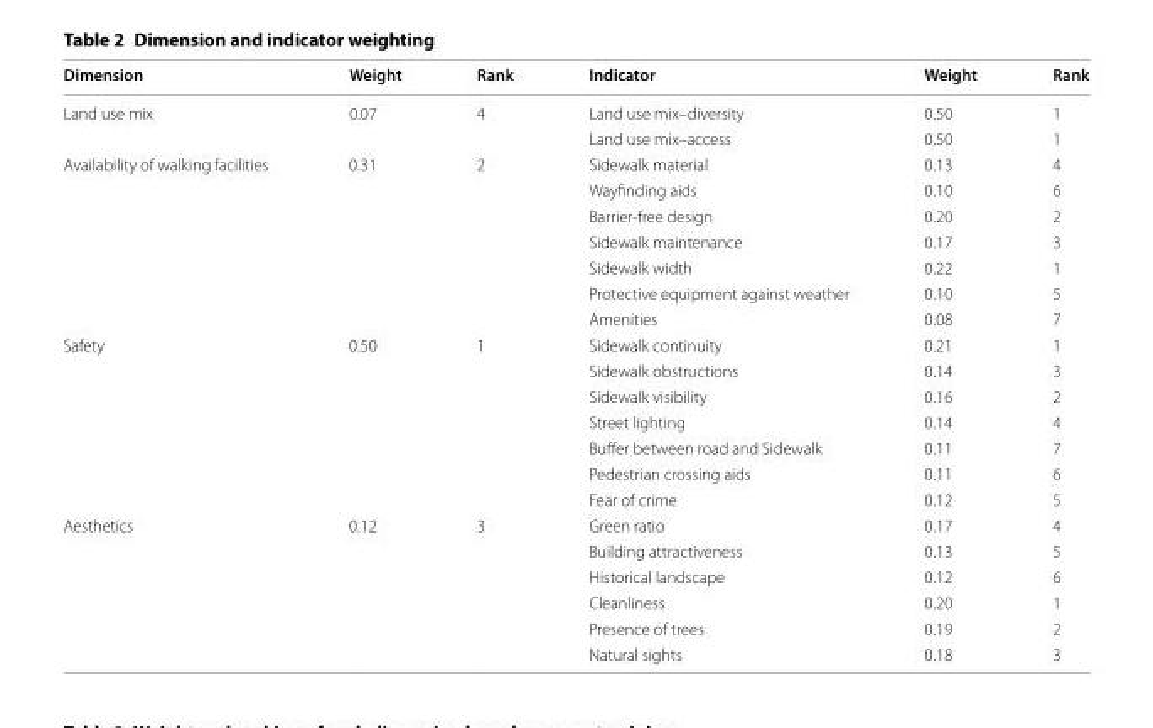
<table><thead><tr><td>Dimension</td><td>Weight</td><td>Rank</td><td>Indicator</td><td>Weight</td><td>Rank</td></tr></thead><tbody><tr><td rowspan="2">Land use mix</td><td>0.07</td><td>4</td><td>Land use mix–diversity</td><td>0.50</td><td>1</td></tr><tr><td></td><td></td><td>Land use mix–access</td><td>0.50</td><td>1</td></tr><tr><td rowspan="7">Availability of walking facilities</td><td>0.31</td><td>2</td><td>Sidewalk material</td><td>0.13</td><td>4</td></tr><tr><td></td><td></td><td>Wayfinding aids</td><td>0.10</td><td>6</td></tr><tr><td></td><td></td><td>Barrier‑free design</td><td>0.20</td><td>2</td></tr><tr><td></td><td></td><td>Sidewalk maintenance</td><td>0.17</td><td>3</td></tr><tr><td></td><td></td><td>Sidewalk width</td><td>0.22</td><td>1</td></tr><tr><td></td><td></td><td>Protective equipment against weather</td><td>0.10</td><td>5</td></tr><tr><td></td><td></td><td>Amenities</td><td>0.08</td><td>7</td></tr><tr><td rowspan="7">Safety</td><td>0.50</td><td>1</td><td>Sidewalk continuity</td><td>0.21</td><td>1</td></tr><tr><td></td><td></td><td>Sidewalk obstructions</td><td>0.14</td><td>3</td></tr><tr><td></td><td></td><td>Sidewalk visibility</td><td>0.16</td><td>2</td></tr><tr><td></td><td></td><td>Street lighting</td><td>0.14</td><td>4</td></tr><tr><td></td><td></td><td>Buffer between road and Sidewalk</td><td>0.11</td><td>7</td></tr><tr><td></td><td></td><td>Pedestrian crossing aids</td><td>0.11</td><td>6</td></tr><tr><td></td><td></td><td>Fear of crime</td><td>0.12</td><td>5</td></tr><tr><td rowspan="6">Aesthetics</td><td>0.12</td><td>3</td><td>Green ratio</td><td>0.17</td><td>4</td></tr><tr><td></td><td></td><td>Building attractiveness</td><td>0.13</td><td>5</td></tr><tr><td></td><td></td><td>Historical landscape</td><td>0.12</td><td>6</td></tr><tr><td></td><td></td><td>Cleanliness</td><td>0.20</td><td>1</td></tr><tr><td></td><td></td><td>Presence of trees</td><td>0.19</td><td>2</td></tr><tr><td></td><td></td><td>Natural sights</td><td>0.18</td><td>3</td></tr></tbody></table>